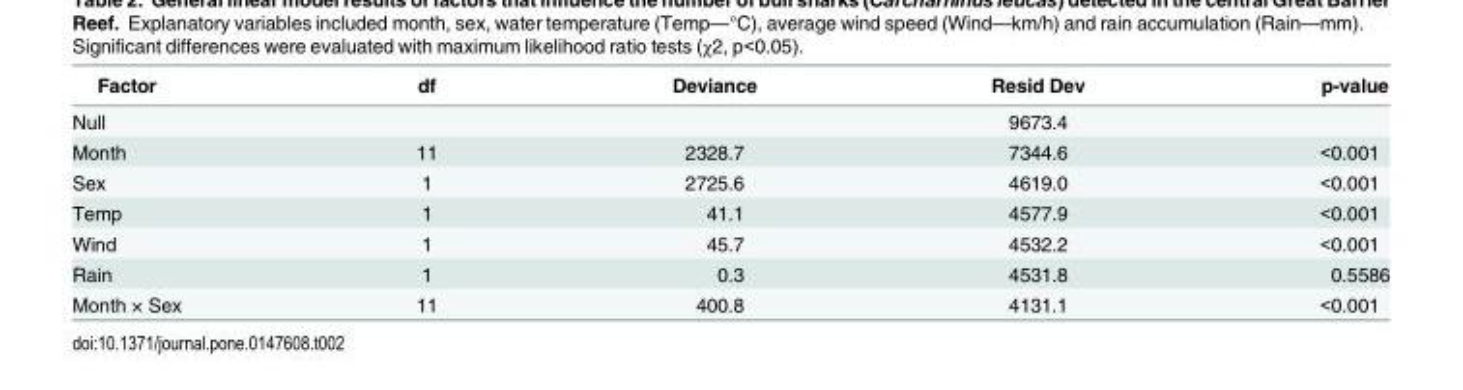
<table><thead><tr><td>Factor</td><td>df</td><td>Deviance</td><td>Resid Dev</td><td>p-value</td></tr></thead><tbody><tr><td>Null</td><td></td><td></td><td>9673.4</td><td></td></tr><tr><td>Month</td><td>11</td><td>2328.7</td><td>7344.6</td><td>&lt;0.001</td></tr><tr><td>Sex</td><td>1</td><td>2725.6</td><td>4619.0</td><td>&lt;0.001</td></tr><tr><td>Temp</td><td>1</td><td>41.1</td><td>4577.9</td><td>&lt;0.001</td></tr><tr><td>Wind</td><td>1</td><td>45.7</td><td>4532.2</td><td>&lt;0.001</td></tr><tr><td>Rain</td><td>1</td><td>0.3</td><td>4531.8</td><td>0.5586</td></tr><tr><td>Month × Sex</td><td>11</td><td>400.8</td><td>4131.1</td><td>&lt;0.001</td></tr></tbody></table>